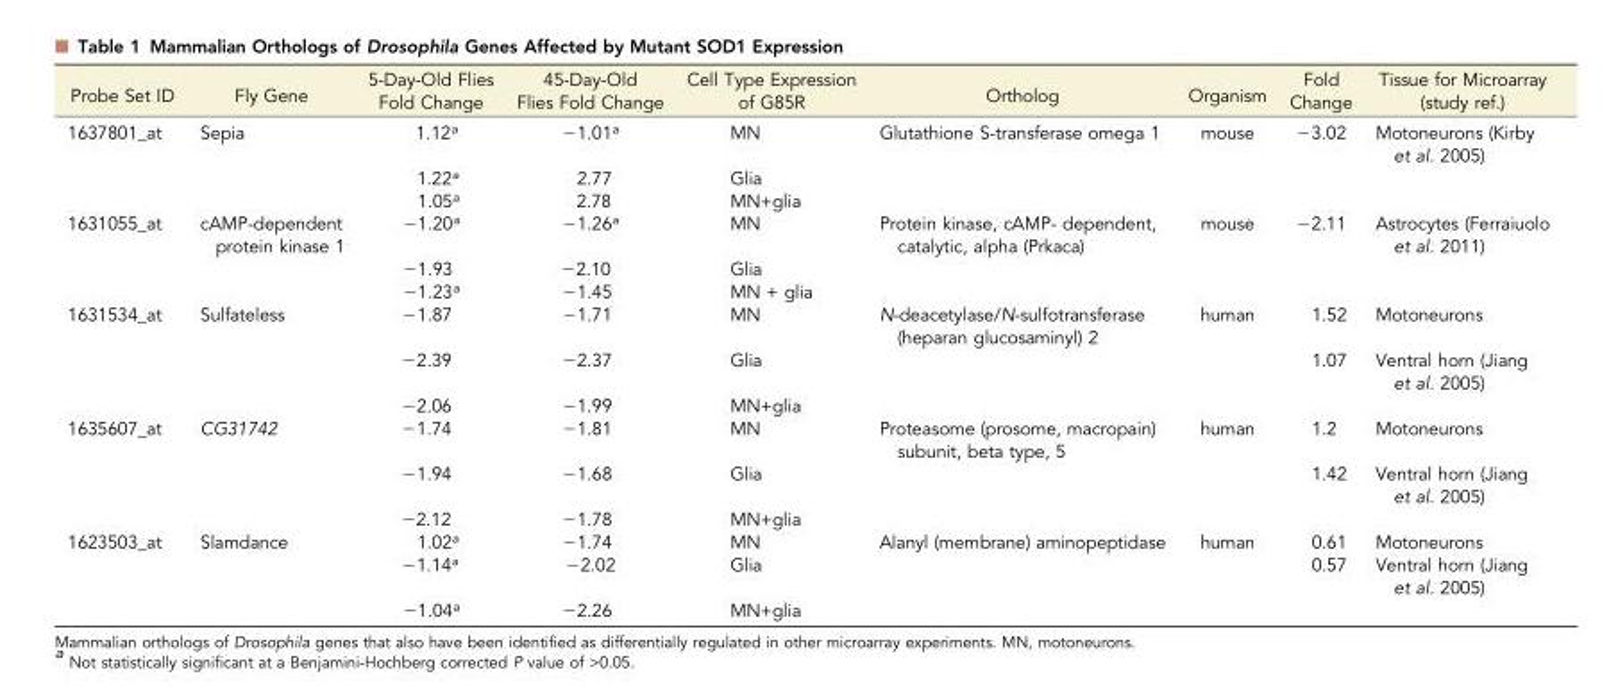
<table><thead><tr><td>Probe Set ID</td><td>Fly Gene</td><td>5-Day-Old Flies Fold Change</td><td>45-Day-Old Flies Fold Change</td><td>Cell Type Expression of G85R</td><td>Ortholog</td><td>Organism</td><td>Fold Change</td><td>Tissue for Microarray (study ref.)</td></tr></thead><tbody><tr><td rowspan="3">1637801_at</td><td>Sepia</td><td>1.12<sup>a</sup></td><td>−1.01<sup>a</sup></td><td>MN</td><td>Glutathione S-transferase omega 1</td><td>mouse</td><td>−3.02</td><td>Motoneurons (Kirby et al. 2005)</td></tr><tr><td></td><td>1.22<sup>a</sup></td><td>2.77</td><td>Glia</td><td></td><td></td><td></td><td></td></tr><tr><td></td><td>1.05<sup>a</sup></td><td>2.78</td><td>MN+glia</td><td></td><td></td><td></td><td></td></tr><tr><td rowspan="3">1631055_at</td><td>cAMP-dependent protein kinase 1</td><td>−1.20<sup>a</sup></td><td>−1.26<sup>a</sup></td><td>MN</td><td>Protein kinase, cAMP- dependent, catalytic, alpha (Prkaca)</td><td>mouse</td><td>−2.11</td><td>Astrocytes (Ferraiuolo et al. 2011)</td></tr><tr><td></td><td>−1.93</td><td>−2.10</td><td>Glia</td><td></td><td></td><td></td><td></td></tr><tr><td></td><td>−1.23<sup>a</sup></td><td>−1.45</td><td>MN + glia</td><td></td><td></td><td></td><td></td></tr><tr><td rowspan="3">1631534_at</td><td>Sulfateless</td><td>−1.87</td><td>−1.71</td><td>MN</td><td>N-deacetylase/N-sulfotransferase (heparan glucosaminyl) 2</td><td>human</td><td>1.52</td><td>Motoneurons</td></tr><tr><td></td><td>−2.39</td><td>−2.37</td><td>Glia</td><td></td><td></td><td>1.07</td><td>Ventral horn (Jiang et al. 2005)</td></tr><tr><td></td><td>−2.06</td><td>−1.99</td><td>MN+glia</td><td></td><td></td><td></td><td></td></tr><tr><td rowspan="3">1635607_at</td><td>CG31742</td><td>−1.74</td><td>−1.81</td><td>MN</td><td>Proteasome (prosome, macropain) subunit, beta type, 5</td><td>human</td><td>1.2</td><td>Motoneurons</td></tr><tr><td></td><td>−1.94</td><td>−1.68</td><td>Glia</td><td></td><td></td><td>1.42</td><td>Ventral horn (Jiang et al. 2005)</td></tr><tr><td></td><td>−2.12</td><td>−1.78</td><td>MN+glia</td><td></td><td></td><td></td><td></td></tr><tr><td rowspan="3">1623503_at</td><td>Slamdance</td><td>1.02<sup>a</sup></td><td>−1.74</td><td>MN</td><td>Alanyl (membrane) aminopeptidase</td><td>human</td><td>0.61</td><td>Motoneurons</td></tr><tr><td></td><td>−1.14<sup>a</sup></td><td>−2.02</td><td>Glia</td><td></td><td></td><td>0.57</td><td>Ventral horn (Jiang et al. 2005)</td></tr><tr><td></td><td>−1.04<sup>a</sup></td><td>−2.26</td><td>MN+glia</td><td></td><td></td><td></td><td></td></tr></tbody></table>